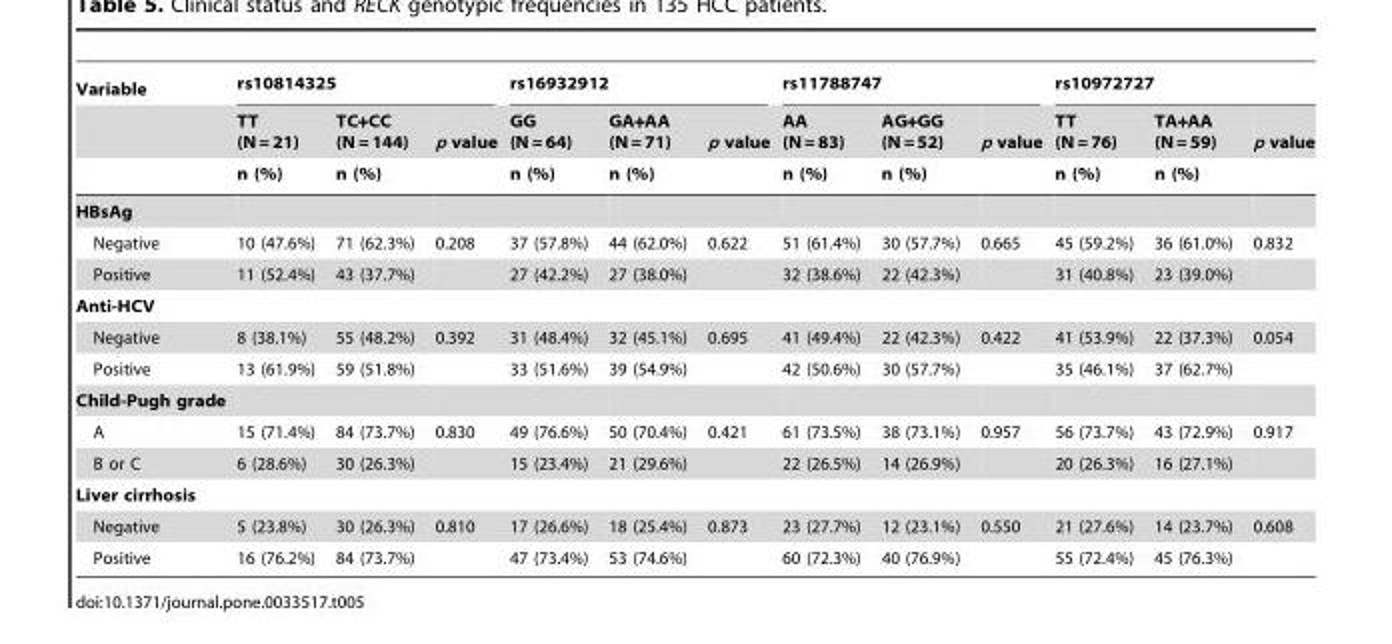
<table><thead><tr><td rowspan="3">Variable</td><td colspan="3">rs10814325</td><td colspan="3">rs16932912</td><td colspan="3">rs11788747</td><td colspan="3">rs10972727</td></tr><tr><td rowspan="2">TT (N = 21) n (%)</td><td rowspan="2">TC+CC (N = 144) n (%)</td><td rowspan="2">p value</td><td rowspan="2">GG (N = 64) n (%)</td><td rowspan="2">GA+AA (N = 71) n (%)</td><td rowspan="2">p value</td><td rowspan="2">AA (N = 83) n (%)</td><td rowspan="2">AG+GG (N = 52) n (%)</td><td rowspan="2">p value</td><td rowspan="2">TT (N = 76) n (%)</td><td rowspan="2">TA+AA (N = 59) n (%)</td><td rowspan="2">p value</td></tr><tr></tr></thead><tbody><tr><td colspan="13">HBsAg</td></tr><tr><td>Negative</td><td>10 (47.6%)</td><td>71 (62.3%)</td><td>0.208</td><td>37 (57.8%)</td><td>44 (62.0%)</td><td>0.622</td><td>51 (61.4%)</td><td>30 (57.7%)</td><td>0.665</td><td>45 (59.2%)</td><td>36 (61.0%)</td><td>0.832</td></tr><tr><td>Positive</td><td>11 (52.4%)</td><td>43 (37.7%)</td><td></td><td>27 (42.2%)</td><td>27 (38.0%)</td><td></td><td>32 (38.6%)</td><td>22 (42.3%)</td><td></td><td>31 (40.8%)</td><td>23 (39.0%)</td><td></td></tr><tr><td colspan="13">Anti-HCV</td></tr><tr><td>Negative</td><td>8 (38.1%)</td><td>55 (48.2%)</td><td>0.392</td><td>31 (48.4%)</td><td>32 (45.1%)</td><td>0.695</td><td>41 (49.4%)</td><td>22 (42.3%)</td><td>0.422</td><td>41 (53.9%)</td><td>22 (37.3%)</td><td>0.054</td></tr><tr><td>Positive</td><td>13 (61.9%)</td><td>59 (51.8%)</td><td></td><td>33 (51.6%)</td><td>39 (54.9%)</td><td></td><td>42 (50.6%)</td><td>30 (57.7%)</td><td></td><td>35 (46.1%)</td><td>37 (62.7%)</td><td></td></tr><tr><td colspan="13">Child-Pugh grade</td></tr><tr><td>A</td><td>15 (71.4%)</td><td>84 (73.7%)</td><td>0.830</td><td>49 (76.6%)</td><td>50 (70.4%)</td><td>0.421</td><td>61 (73.5%)</td><td>38 (73.1%)</td><td>0.957</td><td>56 (73.7%)</td><td>43 (72.9%)</td><td>0.917</td></tr><tr><td>B or C</td><td>6 (28.6%)</td><td>30 (26.3%)</td><td></td><td>15 (23.4%)</td><td>21 (29.6%)</td><td></td><td>22 (26.5%)</td><td>14 (26.9%)</td><td></td><td>20 (26.3%)</td><td>16 (27.1%)</td><td></td></tr><tr><td colspan="13">Liver cirrhosis</td></tr><tr><td>Negative</td><td>5 (23.8%)</td><td>30 (26.3%)</td><td>0.810</td><td>17 (26.6%)</td><td>18 (25.4%)</td><td>0.873</td><td>23 (27.7%)</td><td>12 (23.1%)</td><td>0.550</td><td>21 (27.6%)</td><td>14 (23.7%)</td><td>0.608</td></tr><tr><td>Positive</td><td>16 (76.2%)</td><td>84 (73.7%)</td><td></td><td>47 (73.4%)</td><td>53 (74.6%)</td><td></td><td>60 (72.3%)</td><td>40 (76.9%)</td><td></td><td>55 (72.4%)</td><td>45 (76.3%)</td><td></td></tr></tbody></table>